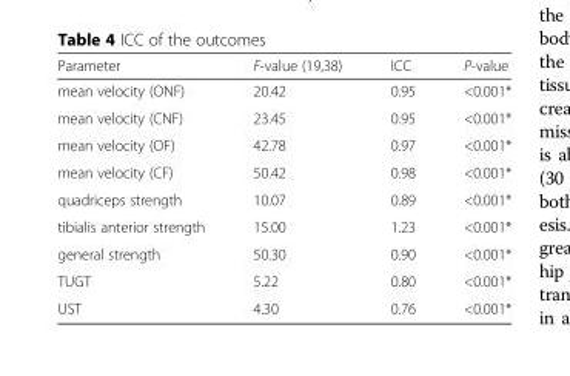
<table><thead><tr><td>Parameter</td><td>F-value (19,38)</td><td>ICC</td><td>P-value</td></tr></thead><tbody><tr><td>mean velocity (ONF)</td><td>20.42</td><td>0.95</td><td>&lt;0.001*</td></tr><tr><td>mean velocity (CNF)</td><td>23.45</td><td>0.95</td><td>&lt;0.001*</td></tr><tr><td>mean velocity (OF)</td><td>42.78</td><td>0.97</td><td>&lt;0.001*</td></tr><tr><td>mean velocity (CF)</td><td>50.42</td><td>0.98</td><td>&lt;0.001*</td></tr><tr><td>quadriceps strength</td><td>10.07</td><td>0.89</td><td>&lt;0.001*</td></tr><tr><td>tibialis anterior strength</td><td>15.00</td><td>1.23</td><td>&lt;0.001*</td></tr><tr><td>general strength</td><td>50.30</td><td>0.90</td><td>&lt;0.001*</td></tr><tr><td>TUGT</td><td>5.22</td><td>0.80</td><td>&lt;0.001*</td></tr><tr><td>UST</td><td>4.30</td><td>0.76</td><td>&lt;0.001*</td></tr></tbody></table>